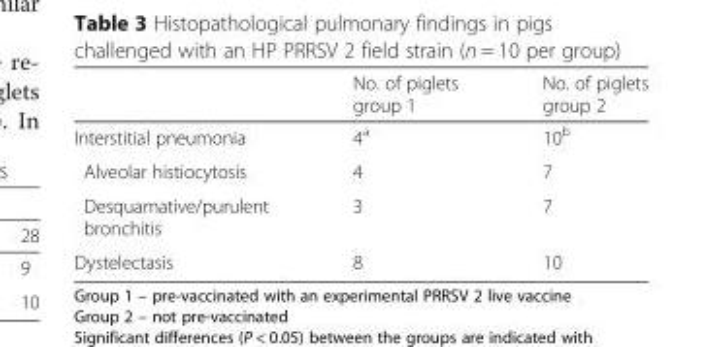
<table><thead><tr><td></td><td>No. of piglets group 1</td><td>No. of piglets group 2</td></tr></thead><tbody><tr><td>Interstitial pneumonia</td><td>4<sup>a</sup></td><td>10<sup>b</sup></td></tr><tr><td>Alveolar histiocytosis</td><td>4</td><td>7</td></tr><tr><td>Desquamative/purulent bronchitis</td><td>3</td><td>7</td></tr><tr><td>Dystelectasis</td><td>8</td><td>10</td></tr></tbody></table>